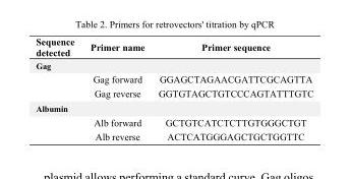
<table><thead><tr><td>Sequence detected</td><td>Primer name</td><td>Primer sequence</td></tr></thead><tbody><tr><td colspan="3">Gag</td></tr><tr><td rowspan="2"></td><td>Gag forward</td><td>GGAGCTAGAACGATTCGCAGTTA</td></tr><tr><td>Gag reverse</td><td>GGTGTAGCTGTCCCAGTATTTGTC</td></tr><tr><td colspan="3">Albumin</td></tr><tr><td rowspan="2"></td><td>Alb forward</td><td>GCTGTCATCTCTTGTGGGCTGT</td></tr><tr><td>Alb reverse</td><td>ACTCATGGGAGCTGCTGGTTC</td></tr></tbody></table>